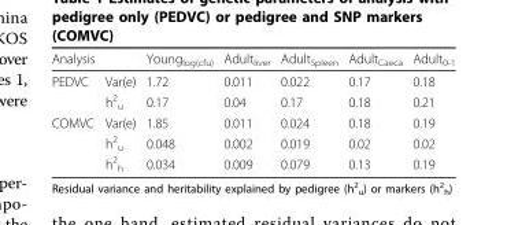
<table><thead><tr><td>Analysis</td><td></td><td>Young<sub>log(cfu)</sub></td><td>Adult<sub>liver</sub></td><td>Adult<sub>Spleen</sub></td><td>Adult<sub>Caeca</sub></td><td>Adult<sub>0-1</sub></td></tr></thead><tbody><tr><td rowspan="2">PEDVC</td><td>Var(e)</td><td>1.72</td><td>0.011</td><td>0.022</td><td>0.17</td><td>0.18</td></tr><tr><td>h<sup>2</sup> <sub>u</sub></td><td>0.17</td><td>0.04</td><td>0.17</td><td>0.18</td><td>0.21</td></tr><tr><td rowspan="3">COMVC</td><td>Var(e)</td><td>1.85</td><td>0.011</td><td>0.024</td><td>0.18</td><td>0.19</td></tr><tr><td>h<sup>2</sup> <sub>u</sub></td><td>0.048</td><td>0.002</td><td>0.019</td><td>0.02</td><td>0.02</td></tr><tr><td>h<sup>2</sup> <sub>h</sub></td><td>0.034</td><td>0.009</td><td>0.079</td><td>0.13</td><td>0.19</td></tr></tbody></table>